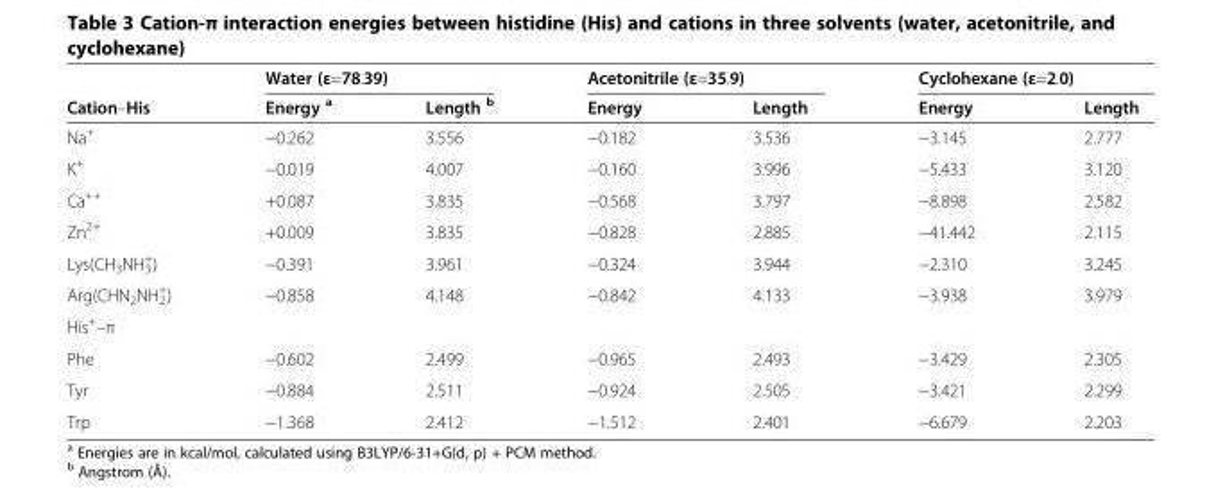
<table><thead><tr><td rowspan="2">Cation–His</td><td colspan="2">Water (ε=78.39)</td><td colspan="2">Acetonitrile (ε=35.9)</td><td colspan="2">Cyclohexane (ε=2.0)</td></tr><tr><td>Energy <sup>a</sup></td><td>Length <sup>b</sup></td><td>Energy</td><td>Length</td><td>Energy</td><td>Length</td></tr></thead><tbody><tr><td>Na<sup>+</sup></td><td>−0.262</td><td>3.556</td><td>−0.182</td><td>3.536</td><td>−3.145</td><td>2.777</td></tr><tr><td>K<sup>+</sup></td><td>−0.019</td><td>4.007</td><td>−0.160</td><td>3.996</td><td>−5.433</td><td>3.120</td></tr><tr><td>Ca<sup>++</sup></td><td>+0.087</td><td>3.835</td><td>−0.568</td><td>3.797</td><td>−8.898</td><td>2.582</td></tr><tr><td>Zn<sup>2+</sup></td><td>+0.009</td><td>3.835</td><td>−0.828</td><td>2.885</td><td>−41.442</td><td>2.115</td></tr><tr><td>Lys(CH<sub>3</sub>NH<sub>3</sub> <sup>+</sup>)</td><td>−0.391</td><td>3.961</td><td>−0.324</td><td>3.944</td><td>−2.310</td><td>3.245</td></tr><tr><td>Arg(CHN<sub>2</sub>NH<sub>2</sub> <sup>+</sup>)</td><td>−0.858</td><td>4.148</td><td>−0.842</td><td>4.133</td><td>−3.938</td><td>3.979</td></tr><tr><td colspan="7">His<sup>+</sup>–π</td></tr><tr><td>Phe</td><td>−0.602</td><td>2.499</td><td>−0.965</td><td>2.493</td><td>−3.429</td><td>2.305</td></tr><tr><td>Tyr</td><td>−0.884</td><td>2.511</td><td>−0.924</td><td>2.505</td><td>−3.421</td><td>2.299</td></tr><tr><td>Trp</td><td>−1.368</td><td>2.412</td><td>−1.512</td><td>2.401</td><td>−6.679</td><td>2.203</td></tr></tbody></table>